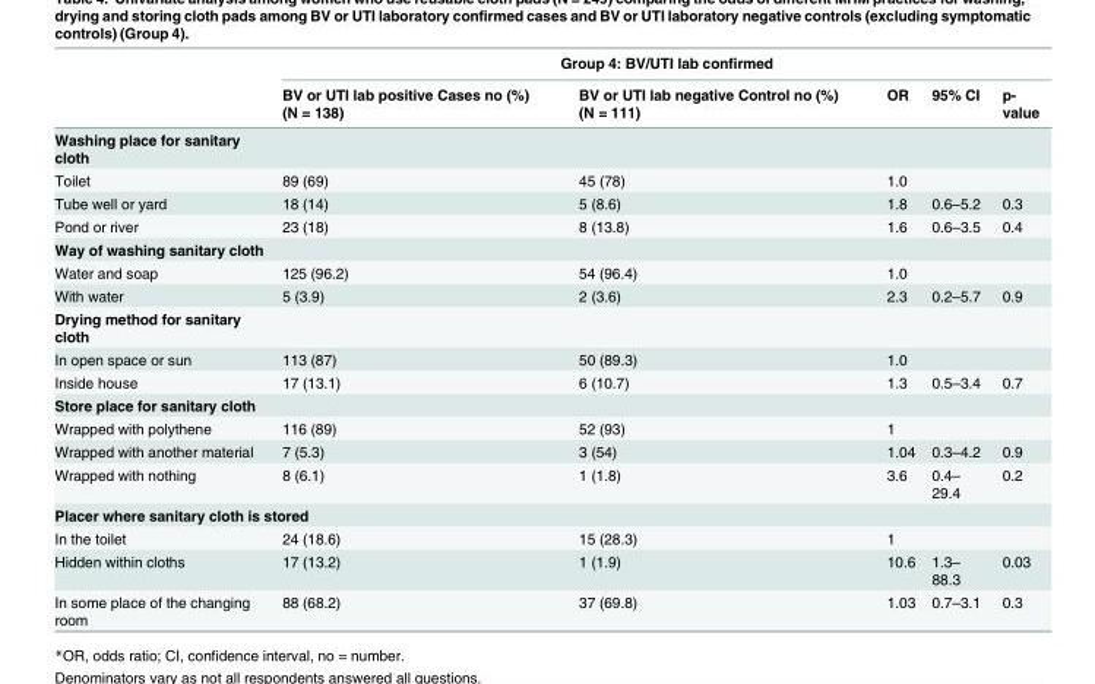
<table><thead><tr><td rowspan="2"></td><td colspan="5">Group 4: BV/UTI lab confirmed</td></tr><tr><td>BV or UTI lab positive Cases no (%) (N = 138)</td><td>BV or UTI lab negative Control no (%) (N = 111)</td><td>OR</td><td>95% CI</td><td>p- value</td></tr></thead><tbody><tr><td colspan="6">Washing place for sanitary cloth</td></tr><tr><td>Toilet</td><td>89 (69)</td><td>45 (78)</td><td>1.0</td><td></td><td></td></tr><tr><td>Tube well or yard</td><td>18 (14)</td><td>5 (8.6)</td><td>1.8</td><td>0.6–5.2</td><td>0.3</td></tr><tr><td>Pond or river</td><td>23 (18)</td><td>8 (13.8)</td><td>1.6</td><td>0.6–3.5</td><td>0.4</td></tr><tr><td colspan="6">Way of washing sanitary cloth</td></tr><tr><td>Water and soap</td><td>125 (96.2)</td><td>54 (96.4)</td><td>1.0</td><td></td><td></td></tr><tr><td>With water</td><td>5 (3.9)</td><td>2 (3.6)</td><td>2.3</td><td>0.2–5.7</td><td>0.9</td></tr><tr><td colspan="6">Drying method for sanitary cloth</td></tr><tr><td>In open space or sun</td><td>113 (87)</td><td>50 (89.3)</td><td>1.0</td><td></td><td></td></tr><tr><td>Inside house</td><td>17 (13.1)</td><td>6 (10.7)</td><td>1.3</td><td>0.5–3.4</td><td>0.7</td></tr><tr><td colspan="6">Store place for sanitary cloth</td></tr><tr><td>Wrapped with polythene</td><td>116 (89)</td><td>52 (93)</td><td>1</td><td></td><td></td></tr><tr><td>Wrapped with another material</td><td>7 (5.3)</td><td>3 (54)</td><td>1.04</td><td>0.3–4.2</td><td>0.9</td></tr><tr><td>Wrapped with nothing</td><td>8 (6.1)</td><td>1 (1.8)</td><td>3.6</td><td>0.4– 29.4</td><td>0.2</td></tr><tr><td colspan="6">Placer where sanitary cloth is stored</td></tr><tr><td>In the toilet</td><td>24 (18.6)</td><td>15 (28.3)</td><td>1</td><td></td><td></td></tr><tr><td>Hidden within cloths</td><td>17 (13.2)</td><td>1 (1.9)</td><td>10.6</td><td>1.3– 88.3</td><td>0.03</td></tr><tr><td>In some place of the changing room</td><td>88 (68.2)</td><td>37 (69.8)</td><td>1.03</td><td>0.7–3.1</td><td>0.3</td></tr></tbody></table>